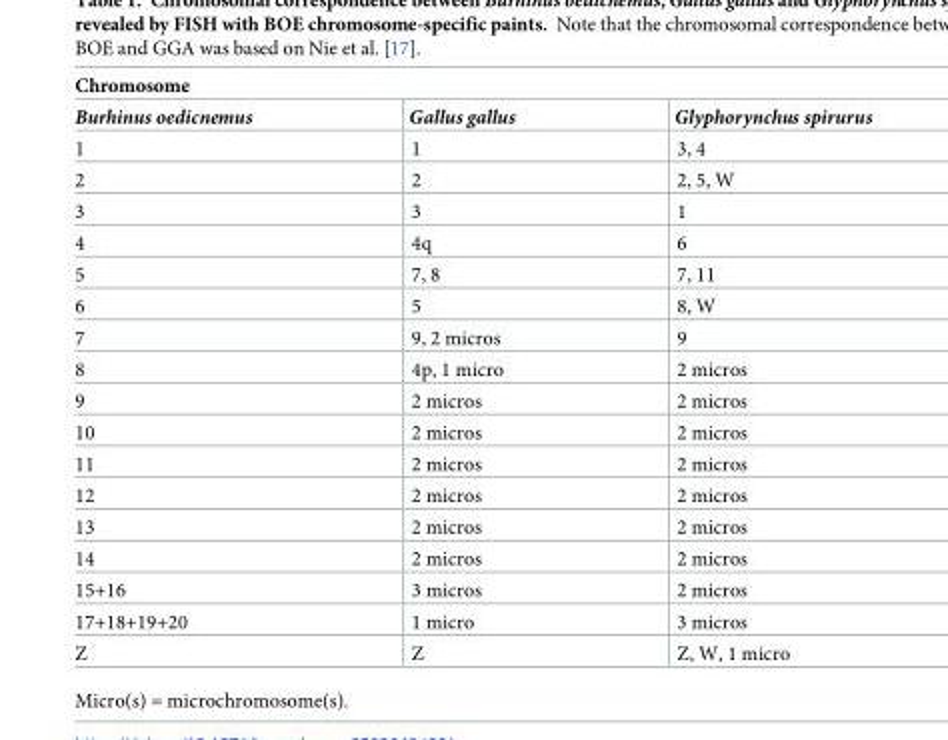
<table><thead><tr><td colspan="3">Chromosome</td></tr><tr><td>Burhinus oedicnemus</td><td>Gallus gallus</td><td>Glyphorynchus spirurus</td></tr></thead><tbody><tr><td>1</td><td>1</td><td>3, 4</td></tr><tr><td>2</td><td>2</td><td>2, 5, W</td></tr><tr><td>3</td><td>3</td><td>1</td></tr><tr><td>4</td><td>4q</td><td>6</td></tr><tr><td>5</td><td>7, 8</td><td>7, 11</td></tr><tr><td>6</td><td>5</td><td>8, W</td></tr><tr><td>7</td><td>9, 2 micros</td><td>9</td></tr><tr><td>8</td><td>4p, 1 micro</td><td>2 micros</td></tr><tr><td>9</td><td>2 micros</td><td>2 micros</td></tr><tr><td>10</td><td>2 micros</td><td>2 micros</td></tr><tr><td>11</td><td>2 micros</td><td>2 micros</td></tr><tr><td>12</td><td>2 micros</td><td>2 micros</td></tr><tr><td>13</td><td>2 micros</td><td>2 micros</td></tr><tr><td>14</td><td>2 micros</td><td>2 micros</td></tr><tr><td>15+16</td><td>3 micros</td><td>2 micros</td></tr><tr><td>17+18+19+20</td><td>1 micro</td><td>3 micros</td></tr><tr><td>Z</td><td>Z</td><td>Z, W, 1 micro</td></tr></tbody></table>